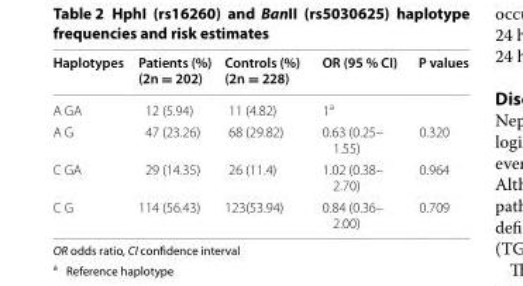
<table><thead><tr><td>Haplotypes</td><td>Patients (%) (2n = 202)</td><td>Controls (%) (2n = 228)</td><td>OR (95 % CI)</td><td>P values</td></tr></thead><tbody><tr><td>A GA</td><td>12 (5.94)</td><td>11 (4.82)</td><td>1<sup>a</sup></td><td></td></tr><tr><td>A G</td><td>47 (23.26)</td><td>68 (29.82)</td><td>0.63 (0.25– 1.55)</td><td>0.320</td></tr><tr><td>C GA</td><td>29 (14.35)</td><td>26 (11.4)</td><td>1.02 (0.38– 2.70)</td><td>0.964</td></tr><tr><td>C G</td><td>114 (56.43)</td><td>123(53.94)</td><td>0.84 (0.36– 2.00)</td><td>0.709</td></tr></tbody></table>